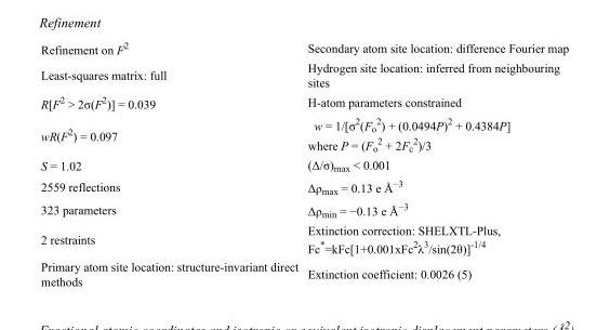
<table><tbody><tr><td>Refinement on F<sup>2</sup></td><td>Secondary atom site location: difference Fourier map</td></tr><tr><td>Least-squares matrix: full</td><td>Hydrogen site location: inferred from neighbouring sites</td></tr><tr><td>R[F<sup>2</sup> &gt; 2σ(F<sup>2</sup>)] = 0.039</td><td>H-atom parameters constrained</td></tr><tr><td>wR(F<sup>2</sup>) = 0.097</td><td>w = 1/[σ<sup>2</sup>(F<sub>o</sub> <sup>2</sup>) + (0.0494P)<sup>2</sup> + 0.4384P] where P = (F<sub>o</sub> <sup>2</sup> + 2F<sub>c</sub> <sup>2</sup>)/3</td></tr><tr><td>S = 1.02</td><td>(Δ/σ)<sub>max</sub> &lt; 0.001</td></tr><tr><td>2559 reflections</td><td>Δρ<sub>max</sub> = 0.13 e Å<sup>−3</sup></td></tr><tr><td>323 parameters</td><td>Δρ<sub>min</sub> = −0.13 e Å<sup>−3</sup></td></tr><tr><td>2 restraints</td><td>Extinction correction: SHELXTL-Plus, Fc*=kFc[1+0.001xFc<sup>2</sup>λ<sup>3</sup>/sin(2θ)]<sup>-1/4</sup></td></tr><tr><td>Primary atom site location: structure-invariant direct methods</td><td>Extinction coefficient: 0.0026 (5)</td></tr></tbody></table>